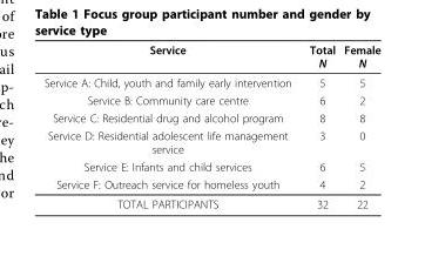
<table><thead><tr><td>Service</td><td>Total N</td><td>Female N</td></tr></thead><tbody><tr><td>Service A: Child, youth and family early intervention</td><td>5</td><td>5</td></tr><tr><td>Service B: Community care centre</td><td>6</td><td>2</td></tr><tr><td>Service C: Residential drug and alcohol program</td><td>8</td><td>8</td></tr><tr><td>Service D: Residential adolescent life management service</td><td>3</td><td>0</td></tr><tr><td>Service E: Infants and child services</td><td>6</td><td>5</td></tr><tr><td>Service F: Outreach service for homeless youth</td><td>4</td><td>2</td></tr><tr><td>TOTAL PARTICIPANTS</td><td>32</td><td>22</td></tr></tbody></table>